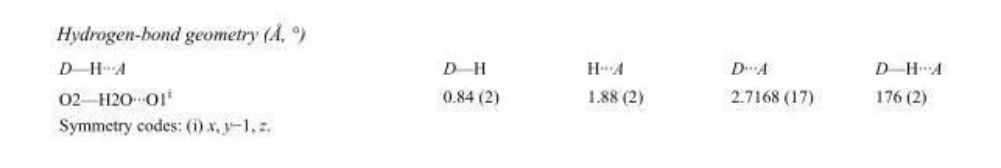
<table><tbody><tr><td>D—H···A</td><td>D—H</td><td>H···A</td><td>D···A</td><td>D—H···A</td></tr><tr><td>O2—H2O···O1<sup>i</sup></td><td>0.84 (2)</td><td>1.88 (2)</td><td>2.7168 (17)</td><td>176 (2)</td></tr></tbody></table>